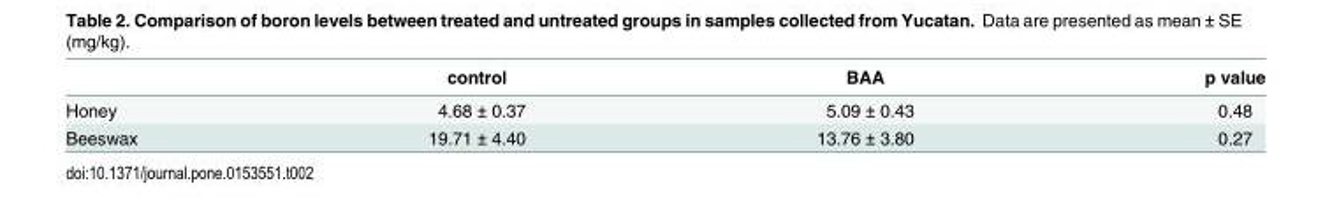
<table><thead><tr><td></td><td>control</td><td>BAA</td><td>p value</td></tr></thead><tbody><tr><td>Honey</td><td>4.68 ± 0.37</td><td>5.09 ± 0.43</td><td>0.48</td></tr><tr><td>Beeswax</td><td>19.71 ± 4.40</td><td>13.76 ± 3.80</td><td>0.27</td></tr></tbody></table>